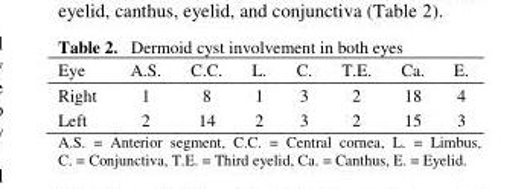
<table><thead><tr><td>Eye</td><td>A.S.</td><td>C.C.</td><td>L.</td><td>C.</td><td>T.E.</td><td>Ca.</td><td>E.</td></tr></thead><tbody><tr><td>Right</td><td>1</td><td>8</td><td>1</td><td>3</td><td>2</td><td>18</td><td>4</td></tr><tr><td>Left</td><td>2</td><td>14</td><td>2</td><td>3</td><td>2</td><td>15</td><td>3</td></tr></tbody></table>